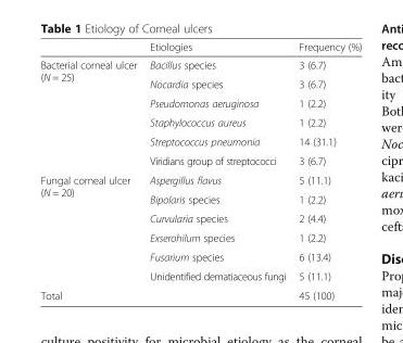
<table><thead><tr><td></td><td>Etiologies</td><td>Frequency (%)</td></tr></thead><tbody><tr><td rowspan="6">Bacterial corneal ulcer (N = 25)</td><td>Bacillus species</td><td>3 (6.7)</td></tr><tr><td>Nocardia species</td><td>3 (6.7)</td></tr><tr><td>Pseudomonas aeruginosa</td><td>1 (2.2)</td></tr><tr><td>Staphylococcus aureus</td><td>1 (2.2)</td></tr><tr><td>Streptococcus pneumonia</td><td>14 (31.1)</td></tr><tr><td>Viridians group of streptococci</td><td>3 (6.7)</td></tr><tr><td rowspan="6">Fungal corneal ulcer (N = 20)</td><td>Aspergillus flavus</td><td>5 (11.1)</td></tr><tr><td>Bipolaris species</td><td>1 (2.2)</td></tr><tr><td>Curvularia species</td><td>2 (4.4)</td></tr><tr><td>Exserohilum species</td><td>1 (2.2)</td></tr><tr><td>Fusarium species</td><td>6 (13.4)</td></tr><tr><td>Unidentified dematiaceous fungi</td><td>5 (11.1)</td></tr><tr><td>Total</td><td></td><td>45 (100)</td></tr></tbody></table>